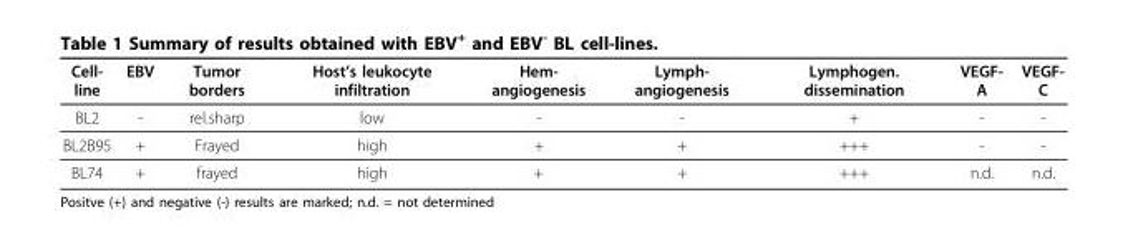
<table><thead><tr><td>Cell- line</td><td>EBV</td><td>Tumor borders</td><td>Host’s leukocyte infiltration</td><td>Hem- angiogenesis</td><td>Lymph- angiogenesis</td><td>Lymphogen. dissemination</td><td>VEGF- A</td><td>VEGF- C</td></tr></thead><tbody><tr><td>BL2</td><td>-</td><td>rel.sharp</td><td>low</td><td>-</td><td>-</td><td>+</td><td>-</td><td>-</td></tr><tr><td>BL2B95</td><td>+</td><td>Frayed</td><td>high</td><td>+</td><td>+</td><td>+++</td><td>-</td><td>-</td></tr><tr><td>BL74</td><td>+</td><td>frayed</td><td>high</td><td>+</td><td>+</td><td>+++</td><td>n.d.</td><td>n.d.</td></tr></tbody></table>